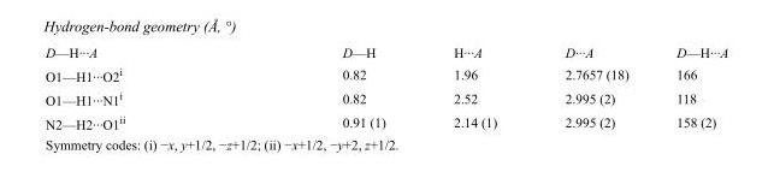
<table><tbody><tr><td>D—H···A</td><td>D—H</td><td>H···A</td><td>D···A</td><td>D—H···A</td></tr><tr><td>O1—H1···O2<sup>i</sup></td><td>0.82</td><td>1.96</td><td>2.7657 (18)</td><td>166</td></tr><tr><td>O1—H1···N1<sup>i</sup></td><td>0.82</td><td>2.52</td><td>2.995 (2)</td><td>118</td></tr><tr><td>N2—H2···O1<sup>ii</sup></td><td>0.91 (1)</td><td>2.14 (1)</td><td>2.995 (2)</td><td>158 (2)</td></tr></tbody></table>